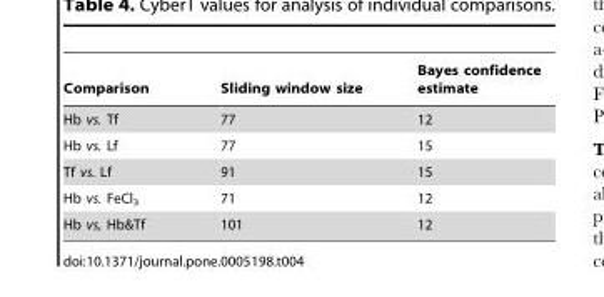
<table><thead><tr><td>Comparison</td><td>Sliding window size</td><td>Bayes confidence estimate</td></tr></thead><tbody><tr><td>Hb vs. Tf</td><td>77</td><td>12</td></tr><tr><td>Hb vs. Lf</td><td>77</td><td>15</td></tr><tr><td>Tf vs. Lf</td><td>91</td><td>15</td></tr><tr><td>Hb vs. FeCl<sub>3</sub></td><td>71</td><td>12</td></tr><tr><td>Hb vs, Hb&amp;Tf</td><td>101</td><td>12</td></tr></tbody></table>